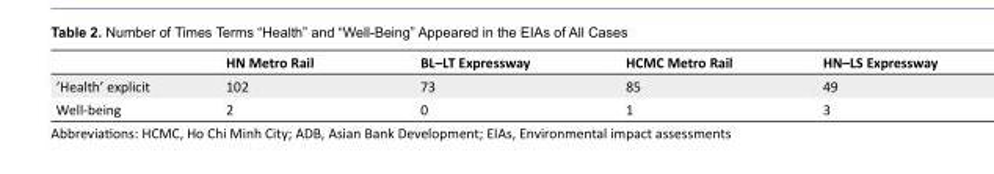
<table><thead><tr><td></td><td>HN Metro Rail</td><td>BL–LT Expressway</td><td>HCMC Metro Rail</td><td>HN–LS Expressway</td></tr></thead><tbody><tr><td>‘Health’ explicit</td><td>102</td><td>73</td><td>85</td><td>49</td></tr><tr><td>Well-being</td><td>2</td><td>0</td><td>1</td><td>3</td></tr></tbody></table>